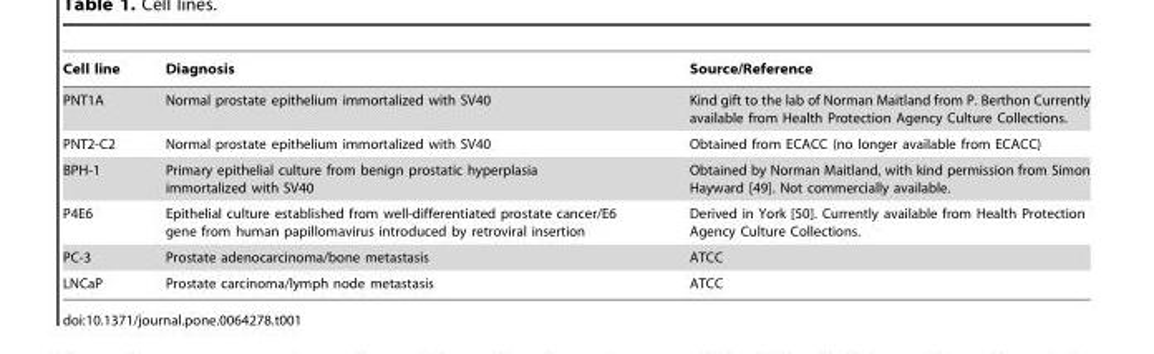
<table><thead><tr><td>Cell line</td><td>Diagnosis</td><td>Source/Reference</td></tr></thead><tbody><tr><td>PNT1A</td><td>Normal prostate epithelium immortalized with SV40</td><td>Kind gift to the lab of Norman Maitland from P. Berthon Currently available from Health Protection Agency Culture Collections.</td></tr><tr><td>PNT2-C2</td><td>Normal prostate epithelium immortalized with SV40</td><td>Obtained from ECACC (no longer available from ECACC)</td></tr><tr><td>BPH-1</td><td>Primary epithelial culture from benign prostatic hyperplasia immortalized with SV40</td><td>Obtained by Norman Maitland, with kind permission from Simon Hayward [49]. Not commercially available.</td></tr><tr><td>P4E6</td><td>Epithelial culture established from well-differentiated prostate cancer/E6 gene from human papillomavirus introduced by retroviral insertion</td><td>Derived in York [50]. Currently available from Health Protection Agency Culture Collections.</td></tr><tr><td>PC-3</td><td>Prostate adenocarcinoma/bone metastasis</td><td>ATCC</td></tr><tr><td>LNCaP</td><td>Prostate carcinoma/lymph node metastasis</td><td>ATCC</td></tr></tbody></table>